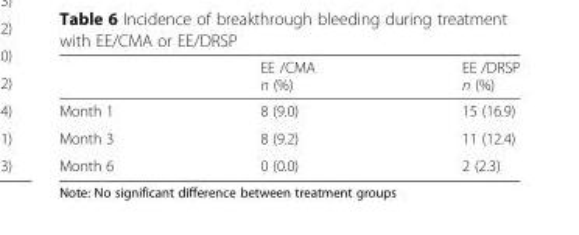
<table><thead><tr><td></td><td>EE /CMA n (%)</td><td>EE /DRSP n (%)</td></tr></thead><tbody><tr><td>Month 1</td><td>8 (9.0)</td><td>15 (16.9)</td></tr><tr><td>Month 3</td><td>8 (9.2)</td><td>11 (12.4)</td></tr><tr><td>Month 6</td><td>0 (0.0)</td><td>2 (2.3)</td></tr></tbody></table>